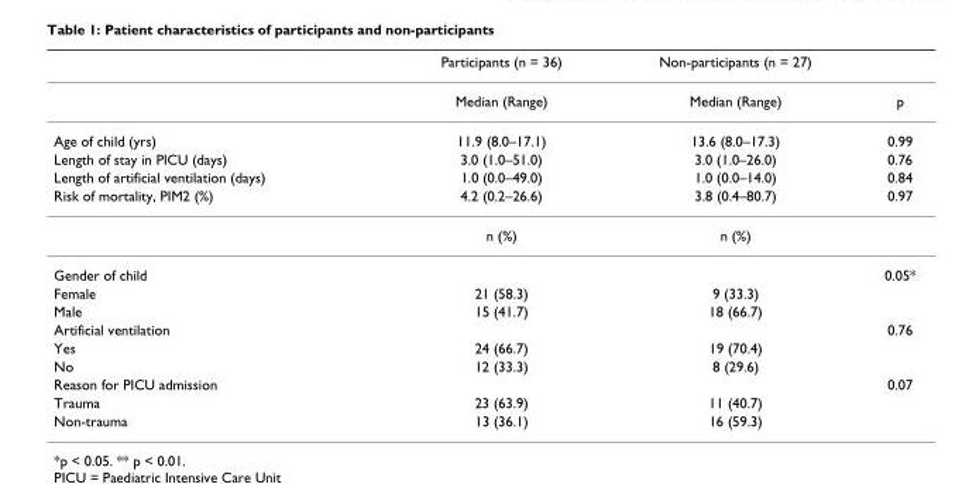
<table><thead><tr><td></td><td>Participants (n = 36)</td><td>Non-participants (n = 27)</td><td></td></tr></thead><tbody><tr><td></td><td>Median (Range)</td><td>Median (Range)</td><td>p</td></tr><tr><td>Age of child (yrs)</td><td>11.9 (8.0–17.1)</td><td>13.6 (8.0–17.3)</td><td>0.99</td></tr><tr><td>Length of stay in PICU (days)</td><td>3.0 (1.0–51.0)</td><td>3.0 (1.0–26.0)</td><td>0.76</td></tr><tr><td>Length of artificial ventilation (days)</td><td>1.0 (0.0–49.0)</td><td>1.0 (0.0–14.0)</td><td>0.84</td></tr><tr><td rowspan="2">Risk of mortality, PIM2 (%)</td><td>4.2 (0.2–26.6)</td><td>3.8 (0.4–80.7)</td><td>0.97</td></tr><tr><td>n (%)</td><td>n (%)</td><td></td></tr><tr><td>Gender of child</td><td></td><td></td><td>0.05*</td></tr><tr><td>Female</td><td>21 (58.3)</td><td>9 (33.3)</td><td></td></tr><tr><td>Male</td><td>15 (41.7)</td><td>18 (66.7)</td><td></td></tr><tr><td>Artificial ventilation</td><td></td><td></td><td>0.76</td></tr><tr><td>Yes</td><td>24 (66.7)</td><td>19 (70.4)</td><td></td></tr><tr><td>No</td><td>12 (33.3)</td><td>8 (29.6)</td><td></td></tr><tr><td>Reason for PICU admission</td><td></td><td></td><td>0.07</td></tr><tr><td>Trauma</td><td>23 (63.9)</td><td>11 (40.7)</td><td></td></tr><tr><td>Non-trauma</td><td>13 (36.1)</td><td>16 (59.3)</td><td></td></tr></tbody></table>